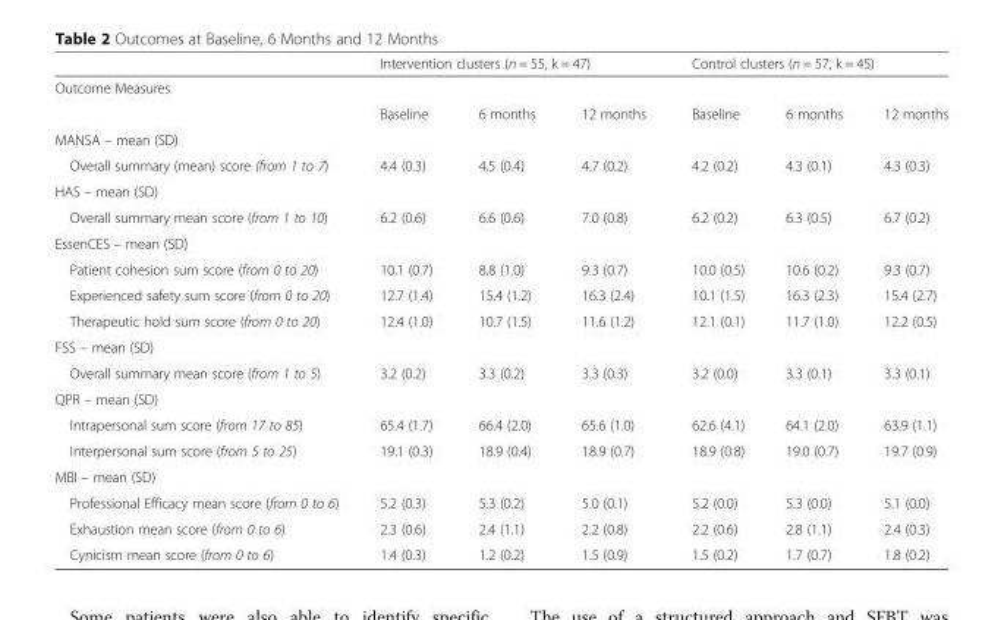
<table><thead><tr><td></td><td colspan="3">Intervention clusters (n = 55, k = 47)</td><td colspan="3">Control clusters (n = 57, k = 45)</td></tr><tr><td colspan="7">Outcome Measures</td></tr><tr><td></td><td>Baseline</td><td>6 months</td><td>12 months</td><td>Baseline</td><td>6 months</td><td>12 months</td></tr></thead><tbody><tr><td colspan="7">MANSA – mean (SD)</td></tr><tr><td>Overall summary (mean) score (from 1 to 7)</td><td>4.4 (0.3)</td><td>4.5 (0.4)</td><td>4.7 (0.2)</td><td>4.2 (0.2)</td><td>4.3 (0.1)</td><td>4.3 (0.3)</td></tr><tr><td colspan="7">HAS – mean (SD)</td></tr><tr><td>Overall summary mean score (from 1 to 10)</td><td>6.2 (0.6)</td><td>6.6 (0.6)</td><td>7.0 (0.8)</td><td>6.2 (0.2)</td><td>6.3 (0.5)</td><td>6.7 (0.2)</td></tr><tr><td colspan="7">EssenCES – mean (SD)</td></tr><tr><td>Patient cohesion sum score (from 0 to 20)</td><td>10.1 (0.7)</td><td>8.8 (1.0)</td><td>9.3 (0.7)</td><td>10.0 (0.5)</td><td>10.6 (0.2)</td><td>9.3 (0.7)</td></tr><tr><td>Experienced safety sum score (from 0 to 20)</td><td>12.7 (1.4)</td><td>15.4 (1.2)</td><td>16.3 (2.4)</td><td>10.1 (1.5)</td><td>16.3 (2.3)</td><td>15.4 (2.7)</td></tr><tr><td>Therapeutic hold sum score (from 0 to 20)</td><td>12.4 (1.0)</td><td>10.7 (1.5)</td><td>11.6 (1.2)</td><td>12.1 (0.1)</td><td>11.7 (1.0)</td><td>12.2 (0.5)</td></tr><tr><td colspan="7">FSS – mean (SD)</td></tr><tr><td>Overall summary mean score (from 1 to 5)</td><td>3.2 (0.2)</td><td>3.3 (0.2)</td><td>3.3 (0.3)</td><td>3.2 (0.0)</td><td>3.3 (0.1)</td><td>3.3 (0.1)</td></tr><tr><td colspan="7">QPR – mean (SD)</td></tr><tr><td>Intrapersonal sum score (from 17 to 85)</td><td>65.4 (1.7)</td><td>66.4 (2.0)</td><td>65.6 (1.0)</td><td>62.6 (4.1)</td><td>64.1 (2.0)</td><td>63.9 (1.1)</td></tr><tr><td>Interpersonal sum score (from 5 to 25)</td><td>19.1 (0.3)</td><td>18.9 (0.4)</td><td>18.9 (0.7)</td><td>18.9 (0.8)</td><td>19.0 (0.7)</td><td>19.7 (0.9)</td></tr><tr><td colspan="7">MBI – mean (SD)</td></tr><tr><td>Professional Efficacy mean score (from 0 to 6)</td><td>5.2 (0.3)</td><td>5.3 (0.2)</td><td>5.0 (0.1)</td><td>5.2 (0.0)</td><td>5.3 (0.0)</td><td>5.1 (0.0)</td></tr><tr><td>Exhaustion mean score (from 0 to 6)</td><td>2.3 (0.6)</td><td>2.4 (1.1)</td><td>2.2 (0.8)</td><td>2.2 (0.6)</td><td>2.8 (1.1)</td><td>2.4 (0.3)</td></tr><tr><td>Cynicism mean score (from 0 to 6)</td><td>1.4 (0.3)</td><td>1.2 (0.2)</td><td>1.5 (0.9)</td><td>1.5 (0.2)</td><td>1.7 (0.7)</td><td>1.8 (0.2)</td></tr></tbody></table>